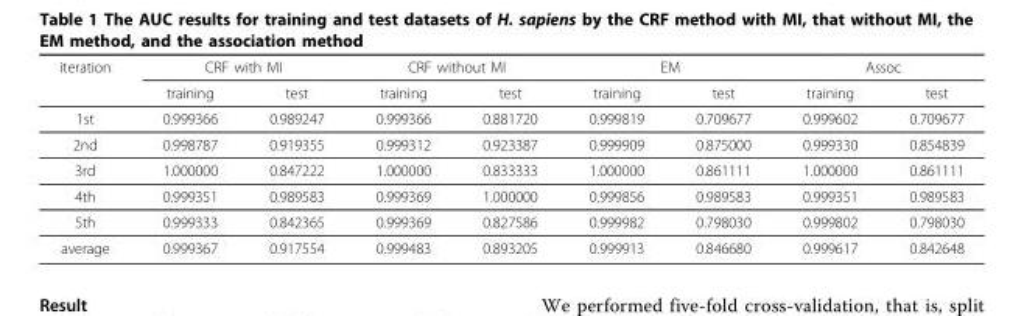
<table><thead><tr><td rowspan="2">iteration</td><td colspan="2">CRF with MI</td><td colspan="2">CRF without MI</td><td colspan="2">EM</td><td colspan="2">Assoc</td></tr><tr><td>training</td><td>test</td><td>training</td><td>test</td><td>training</td><td>test</td><td>training</td><td>test</td></tr></thead><tbody><tr><td>1st</td><td>0.999366</td><td>0.989247</td><td>0.999366</td><td>0.881720</td><td>0.999819</td><td>0.709677</td><td>0.999602</td><td>0.709677</td></tr><tr><td>2nd</td><td>0.998787</td><td>0.919355</td><td>0.999312</td><td>0.923387</td><td>0.999909</td><td>0.875000</td><td>0.999330</td><td>0.854839</td></tr><tr><td>3rd</td><td>1.000000</td><td>0.847222</td><td>1.000000</td><td>0.833333</td><td>1.000000</td><td>0.861111</td><td>1.000000</td><td>0.861111</td></tr><tr><td>4th</td><td>0.999351</td><td>0.989583</td><td>0.999369</td><td>1.000000</td><td>0.999856</td><td>0.989583</td><td>0.999351</td><td>0.989583</td></tr><tr><td>5th</td><td>0.999333</td><td>0.842365</td><td>0.999369</td><td>0.827586</td><td>0.999982</td><td>0.798030</td><td>0.999802</td><td>0.798030</td></tr><tr><td>average</td><td>0.999367</td><td>0.917554</td><td>0.999483</td><td>0.893205</td><td>0.999913</td><td>0.846680</td><td>0.999617</td><td>0.842648</td></tr></tbody></table>